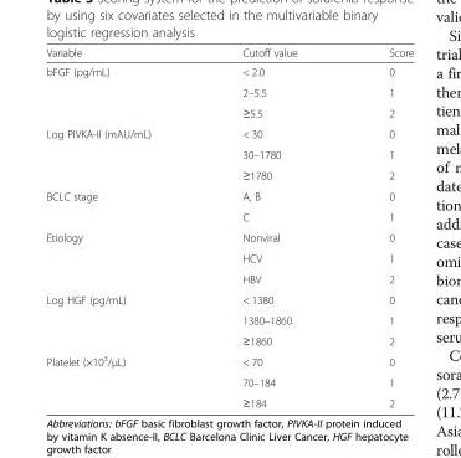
<table><thead><tr><td>Variable</td><td>Cutoff value</td><td>Score</td></tr></thead><tbody><tr><td rowspan="3">bFGF (pg/mL)</td><td>&lt; 2.0</td><td>0</td></tr><tr><td>2–5.5</td><td>1</td></tr><tr><td>≥5.5</td><td>2</td></tr><tr><td rowspan="3">Log PIVKA-II (mAU/mL)</td><td>&lt; 30</td><td>0</td></tr><tr><td>30–1780</td><td>1</td></tr><tr><td>≥1780</td><td>2</td></tr><tr><td rowspan="2">BCLC stage</td><td>A, B</td><td>0</td></tr><tr><td>C</td><td>1</td></tr><tr><td rowspan="3">Etiology</td><td>Nonviral</td><td>0</td></tr><tr><td>HCV</td><td>1</td></tr><tr><td>HBV</td><td>2</td></tr><tr><td rowspan="3">Log HGF (pg/mL)</td><td>&lt; 1380</td><td>0</td></tr><tr><td>1380–1860</td><td>1</td></tr><tr><td>≥1860</td><td>2</td></tr><tr><td rowspan="3">Platelet (×10<sup>3</sup>/μL)</td><td>&lt; 70</td><td>0</td></tr><tr><td>70–184</td><td>1</td></tr><tr><td>≥184</td><td>2</td></tr></tbody></table>